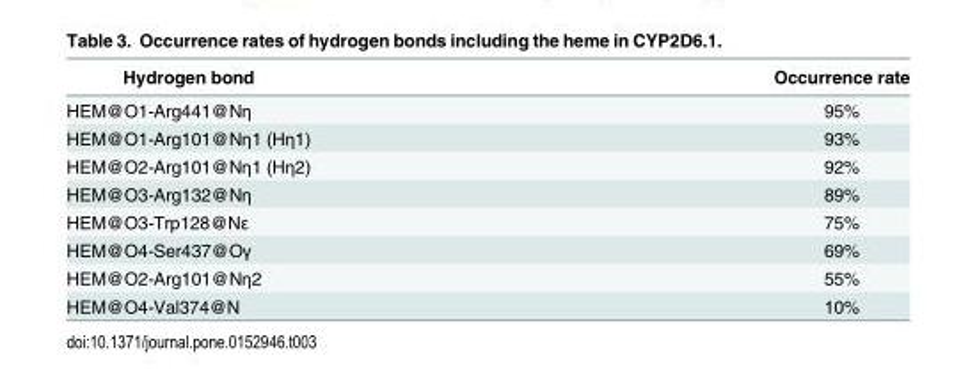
<table><thead><tr><td>Hydrogen bond</td><td>Occurrence rate</td></tr></thead><tbody><tr><td>HEM@O1-Arg441@Nη</td><td>95%</td></tr><tr><td>HEM@O1-Arg101@Nη1 (Hη1)</td><td>93%</td></tr><tr><td>HEM@O2-Arg101@Nη1 (Hη2)</td><td>92%</td></tr><tr><td>HEM@O3-Arg132@Nη</td><td>89%</td></tr><tr><td>HEM@O3-Trp128@Nε</td><td>75%</td></tr><tr><td>HEM@O4-Ser437@Oγ</td><td>69%</td></tr><tr><td>HEM@O2-Arg101@Nη2</td><td>55%</td></tr><tr><td>HEM@O4-Val374@N</td><td>10%</td></tr></tbody></table>